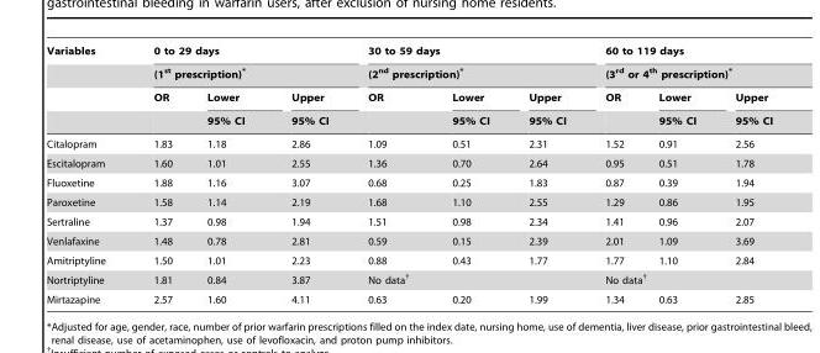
<table><thead><tr><td rowspan="4">Variables</td><td rowspan="2" colspan="3">0 to 29 days (1<sup>st</sup> prescription)*</td><td rowspan="2" colspan="3">30 to 59 days (2<sup>nd</sup> prescription)*</td><td rowspan="2" colspan="3">60 to 119 days (3<sup>rd</sup> or 4<sup>th</sup> prescription)*</td></tr><tr></tr><tr><td rowspan="2">OR</td><td rowspan="2">Lower 95% CI</td><td rowspan="2">Upper 95% CI</td><td rowspan="2">OR</td><td rowspan="2">Lower 95% CI</td><td rowspan="2">Upper 95% CI</td><td rowspan="2">OR</td><td rowspan="2">Lower 95% CI</td><td rowspan="2">Upper 95% CI</td></tr><tr></tr></thead><tbody><tr><td>Citalopram</td><td>1.83</td><td>1.18</td><td>2.86</td><td>1.09</td><td>0.51</td><td>2.31</td><td>1.52</td><td>0.91</td><td>2.56</td></tr><tr><td>Escitalopram</td><td>1.60</td><td>1.01</td><td>2.55</td><td>1.36</td><td>0.70</td><td>2.64</td><td>0.95</td><td>0.51</td><td>1.78</td></tr><tr><td>Fluoxetine</td><td>1.88</td><td>1.16</td><td>3.07</td><td>0.68</td><td>0.25</td><td>1.83</td><td>0.87</td><td>0.39</td><td>1.94</td></tr><tr><td>Paroxetine</td><td>1.58</td><td>1.14</td><td>2.19</td><td>1.68</td><td>1.10</td><td>2.55</td><td>1.29</td><td>0.86</td><td>1.95</td></tr><tr><td>Sertraline</td><td>1.37</td><td>0.98</td><td>1.94</td><td>1.51</td><td>0.98</td><td>2.34</td><td>1.41</td><td>0.96</td><td>2.07</td></tr><tr><td>Venlafaxine</td><td>1.48</td><td>0.78</td><td>2.81</td><td>0.59</td><td>0.15</td><td>2.39</td><td>2.01</td><td>1.09</td><td>3.69</td></tr><tr><td>Amitriptyline</td><td>1.50</td><td>1.01</td><td>2.23</td><td>0.88</td><td>0.43</td><td>1.77</td><td>1.77</td><td>1.10</td><td>2.84</td></tr><tr><td>Nortriptyline</td><td>1.81</td><td>0.84</td><td>3.87</td><td colspan="3">No data†</td><td colspan="3">No data†</td></tr><tr><td>Mirtazapine</td><td>2.57</td><td>1.60</td><td>4.11</td><td>0.63</td><td>0.20</td><td>1.99</td><td>1.34</td><td>0.63</td><td>2.85</td></tr></tbody></table>